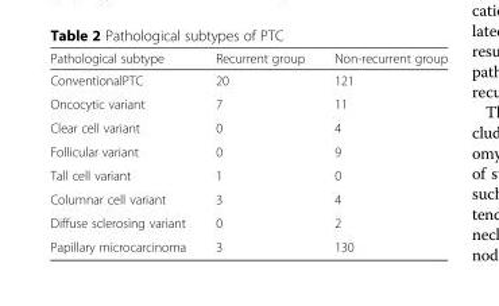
<table><thead><tr><td>Pathological subtype</td><td>Recurrent group</td><td>Non-recurrent group</td></tr></thead><tbody><tr><td>ConventionalPTC</td><td>20</td><td>121</td></tr><tr><td>Oncocytic variant</td><td>7</td><td>11</td></tr><tr><td>Clear cell variant</td><td>0</td><td>4</td></tr><tr><td>Follicular variant</td><td>0</td><td>9</td></tr><tr><td>Tall cell variant</td><td>1</td><td>0</td></tr><tr><td>Columnar cell variant</td><td>3</td><td>4</td></tr><tr><td>Diffuse sclerosing variant</td><td>0</td><td>2</td></tr><tr><td>Papillary microcarcinoma</td><td>3</td><td>130</td></tr></tbody></table>